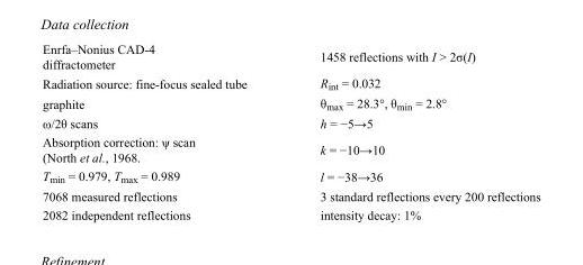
<table><tbody><tr><td>Enrfa–Nonius CAD-4 diffractometer</td><td>1458 reflections with I &gt; 2σ(I)</td></tr><tr><td>Radiation source: fine-focus sealed tube</td><td>R<sub>int</sub> = 0.032</td></tr><tr><td>graphite</td><td>θ<sub>max</sub> = 28.3°, θ<sub>min</sub> = 2.8°</td></tr><tr><td>ω/2θ scans</td><td>h = −5→5</td></tr><tr><td>Absorption correction: ψ scan (North et al., 1968.</td><td>k = −10→10</td></tr><tr><td>T<sub>min</sub> = 0.979, T<sub>max</sub> = 0.989</td><td>l = −38→36</td></tr><tr><td>7068 measured reflections</td><td>3 standard reflections every 200 reflections</td></tr><tr><td>2082 independent reflections</td><td>intensity decay: 1%</td></tr></tbody></table>